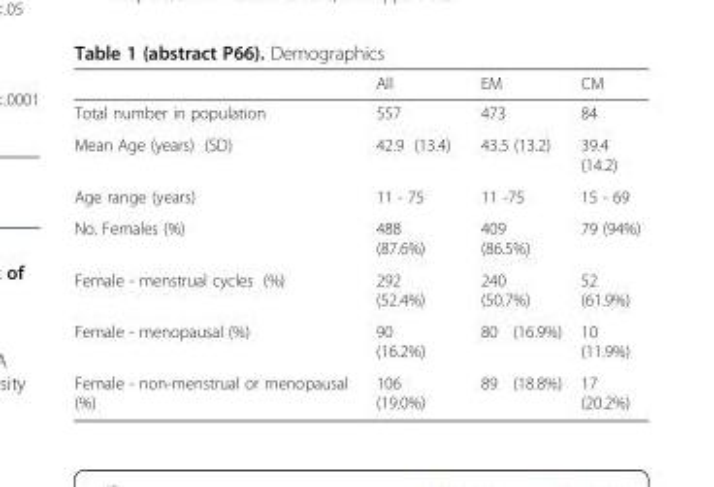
<table><thead><tr><td></td><td>All</td><td>EM</td><td>CM</td></tr></thead><tbody><tr><td>Total number in population</td><td>557</td><td>473</td><td>84</td></tr><tr><td>Mean Age (years) (SD)</td><td>42.9 (13.4)</td><td>43.5 (13.2)</td><td>39.4 (14.2)</td></tr><tr><td>Age range (years)</td><td>11 - 75</td><td>11 -75</td><td>15 - 69</td></tr><tr><td>No. Females (%)</td><td>488 (87.6%)</td><td>409 (86.5%)</td><td>79 (94%)</td></tr><tr><td>Female - menstrual cycles (%)</td><td>292 (52.4%)</td><td>240 (50.7%)</td><td>52 (61.9%)</td></tr><tr><td>Female - menopausal (%)</td><td>90 (16.2%)</td><td>80 (16.9%)</td><td>10 (11.9%)</td></tr><tr><td>Female - non-menstrual or menopausal (%)</td><td>106 (19.0%)</td><td>89 (18.8%)</td><td>17 (20.2%)</td></tr></tbody></table>